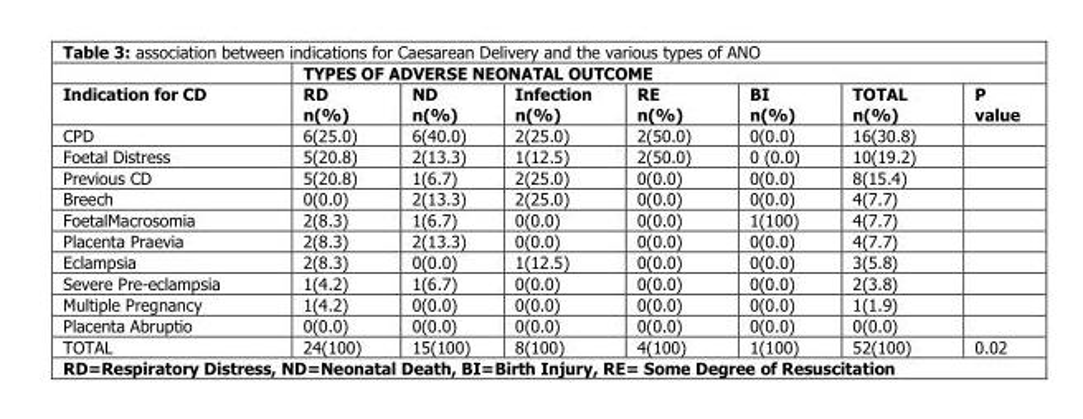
<table><thead><tr><td rowspan="2">Indication for CD</td><td colspan="7">TYPES OF ADVERSE NEONATAL OUTCOME</td></tr><tr><td>RD n(%)</td><td>ND n(%)</td><td>Infection n(%)</td><td>RE n(%)</td><td>BI n(%)</td><td>TOTAL n(%)</td><td>P value</td></tr></thead><tbody><tr><td>CPD</td><td>6(25.0)</td><td>6(40.0)</td><td>2(25.0)</td><td>2(50.0)</td><td>0(0.0)</td><td>16(30.8)</td><td></td></tr><tr><td>Foetal Distress</td><td>5(20.8)</td><td>2(13.3)</td><td>1(12.5)</td><td>2(50.0)</td><td>0 (0.0)</td><td>10(19.2)</td><td></td></tr><tr><td>Previous CD</td><td>5(20.8)</td><td>1(6.7)</td><td>2(25.0)</td><td>0(0.0)</td><td>0(0.0)</td><td>8(15.4)</td><td></td></tr><tr><td>Breech</td><td>0(0.0)</td><td>2(13.3)</td><td>2(25.0)</td><td>0(0.0)</td><td>0(0.0)</td><td>4(7.7)</td><td></td></tr><tr><td>FoetalMacrosomia</td><td>2(8.3)</td><td>1(6.7)</td><td>0(0.0)</td><td>0(0.0)</td><td>1(100)</td><td>4(7.7)</td><td></td></tr><tr><td>Placenta Praevia</td><td>2(8.3)</td><td>2(13.3)</td><td>0(0.0)</td><td>0(0.0)</td><td>0(0.0)</td><td>4(7.7)</td><td></td></tr><tr><td>Eclampsia</td><td>2(8.3)</td><td>0(0.0)</td><td>1(12.5)</td><td>0(0.0)</td><td>0(0.0)</td><td>3(5.8)</td><td></td></tr><tr><td>Severe Pre-eclampsia</td><td>1(4.2)</td><td>1(6.7)</td><td>0(0.0)</td><td>0(0.0)</td><td>0(0.0)</td><td>2(3.8)</td><td></td></tr><tr><td>Multiple Pregnancy</td><td>1(4.2)</td><td>0(0.0)</td><td>0(0.0)</td><td>0(0.0)</td><td>0(0.0)</td><td>1(1.9)</td><td></td></tr><tr><td>Placenta Abruptio</td><td>0(0.0)</td><td>0(0.0)</td><td>0(0.0)</td><td>0(0.0)</td><td>0(0.0)</td><td>0(0.0)</td><td></td></tr><tr><td>TOTAL</td><td>24(100)</td><td>15(100)</td><td>8(100)</td><td>4(100)</td><td>1(100)</td><td>52(100)</td><td>0.02</td></tr></tbody></table>